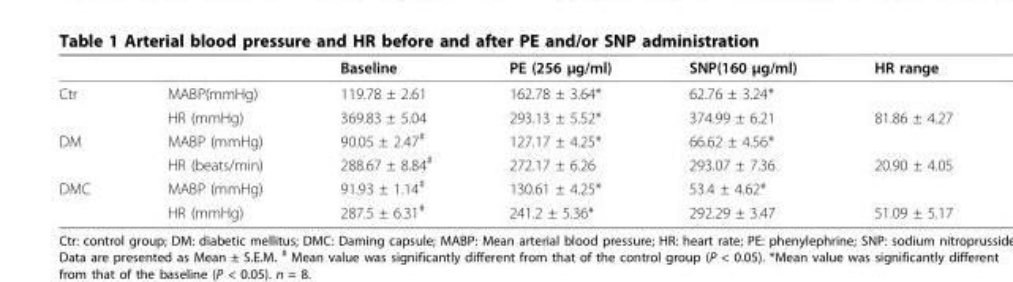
<table><thead><tr><td></td><td></td><td>Baseline</td><td>PE (256 μg/ml)</td><td>SNP(160 μg/ml)</td><td>HR range</td></tr></thead><tbody><tr><td rowspan="2">Ctr</td><td>MABP(mmHg)</td><td>119.78 ± 2.61</td><td>162.78 ± 3.64*</td><td>62.76 ± 3.24*</td><td></td></tr><tr><td>HR (mmHg)</td><td>369.83 ± 5.04</td><td>293.13 ± 5.52*</td><td>374.99 ± 6.21</td><td>81.86 ± 4.27</td></tr><tr><td rowspan="2">DM</td><td>MABP (mmHg)</td><td>90.05 ± 2.47<sup>#</sup></td><td>127.17 ± 4.25*</td><td>66.62 ± 4.56*</td><td></td></tr><tr><td>HR (beats/min)</td><td>288.67 ± 8.84<sup>#</sup></td><td>272.17 ± 6.26</td><td>293.07 ± 7.36</td><td>20.90 ± 4.05</td></tr><tr><td rowspan="2">DMC</td><td>MABP (mmHg)</td><td>91.93 ± 1.14<sup>#</sup></td><td>130.61 ± 4.25*</td><td>53.4 ± 4.62*</td><td></td></tr><tr><td>HR (mmHg)</td><td>287.5 ± 6.31<sup>#</sup></td><td>241.2 ± 5.36*</td><td>292.29 ± 3.47</td><td>51.09 ± 5.17</td></tr></tbody></table>